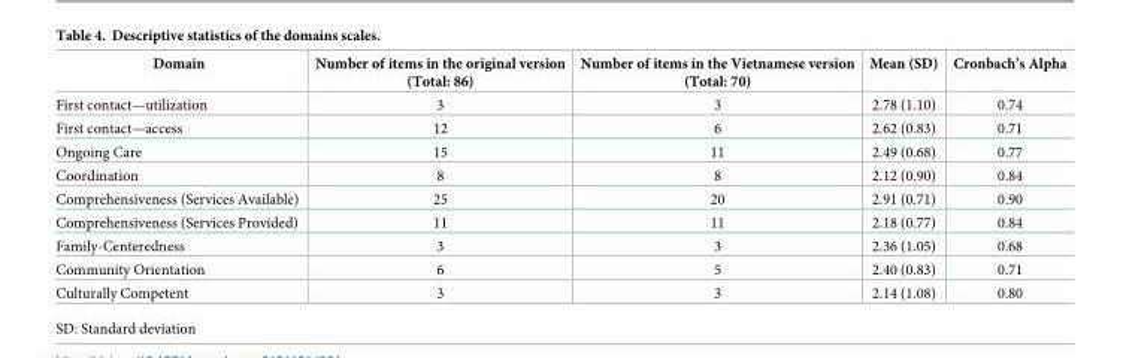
<table><thead><tr><td>Domain</td><td>Number of items in the original version (Total: 86)</td><td>Number of items in the Vietnamese version (Total: 70)</td><td>Mean (SD)</td><td>Cronbach’s Alpha</td></tr></thead><tbody><tr><td>First contact—utilization</td><td>3</td><td>3</td><td>2.78 (1.10)</td><td>0.74</td></tr><tr><td>First contact—access</td><td>12</td><td>6</td><td>2.62 (0.83)</td><td>0.71</td></tr><tr><td>Ongoing Care</td><td>15</td><td>11</td><td>2.49 (0.68)</td><td>0.77</td></tr><tr><td>Coordination</td><td>8</td><td>8</td><td>2.12 (0.90)</td><td>0.84</td></tr><tr><td>Comprehensiveness (Services Available)</td><td>25</td><td>20</td><td>2.91 (0.71)</td><td>0.90</td></tr><tr><td>Comprehensiveness (Services Provided)</td><td>11</td><td>11</td><td>2.18 (0.77)</td><td>0.84</td></tr><tr><td>Family-Centeredness</td><td>3</td><td>3</td><td>2.36 (1.05)</td><td>0.68</td></tr><tr><td>Community Orientation</td><td>6</td><td>5</td><td>2.40 (0.83)</td><td>0.71</td></tr><tr><td>Culturally Competent</td><td>3</td><td>3</td><td>2.14 (1.08)</td><td>0.80</td></tr></tbody></table>